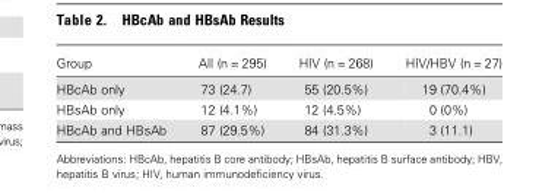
<table><thead><tr><td>Group</td><td>All (n = 295)</td><td>HIV (n = 268)</td><td>HIV/HBV (n = 27)</td></tr></thead><tbody><tr><td>HBcAb only</td><td>73 (24.7)</td><td>55 (20.5%)</td><td>19 (70.4%)</td></tr><tr><td>HBsAb only</td><td>12 (4.1%)</td><td>12 (4.5%)</td><td>0 (0%)</td></tr><tr><td>HBcAb and HBsAb</td><td>87 (29.5%)</td><td>84 (31.3%)</td><td>3 (11.1)</td></tr></tbody></table>